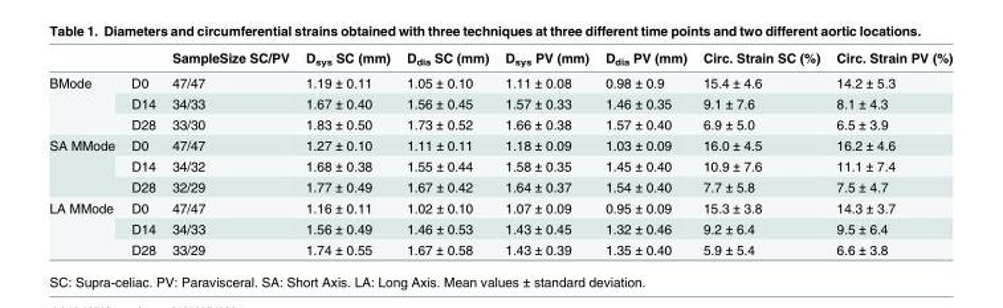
<table><thead><tr><td></td><td></td><td>SampleSize SC/PV</td><td>D<sub>sys</sub> SC (mm)</td><td>D<sub>dia</sub> SC (mm)</td><td>D<sub>sys</sub> PV (mm)</td><td>D<sub>dia</sub> PV (mm)</td><td>Circ. Strain SC (%)</td><td>Circ. Strain PV (%)</td></tr></thead><tbody><tr><td rowspan="3">BMode</td><td>D0</td><td>47/47</td><td>1.19 ± 0.11</td><td>1.05 ± 0.10</td><td>1.11 ± 0.08</td><td>0.98 ± 0.9</td><td>15.4 ± 4.6</td><td>14.2 ± 5.3</td></tr><tr><td>D14</td><td>34/33</td><td>1.67 ± 0.40</td><td>1.56 ± 0.45</td><td>1.57 ± 0.33</td><td>1.46 ± 0.35</td><td>9.1 ± 7.6</td><td>8.1 ± 4.3</td></tr><tr><td>D28</td><td>33/30</td><td>1.83 ± 0.50</td><td>1.73 ± 0.52</td><td>1.66 ± 0.38</td><td>1.57 ± 0.40</td><td>6.9 ± 5.0</td><td>6.5 ± 3.9</td></tr><tr><td rowspan="3">SA MMode</td><td>D0</td><td>47/47</td><td>1.27 ± 0.10</td><td>1.11 ± 0.11</td><td>1.18 ± 0.09</td><td>1.03 ± 0.09</td><td>16.0 ± 4.5</td><td>16.2 ± 4.6</td></tr><tr><td>D14</td><td>34/32</td><td>1.68 ± 0.38</td><td>1.55 ± 0.44</td><td>1.58 ± 0.35</td><td>1.45 ± 0.40</td><td>10.9 ± 7.6</td><td>11.1 ± 7.4</td></tr><tr><td>D28</td><td>32/29</td><td>1.77 ± 0.49</td><td>1.67 ± 0.42</td><td>1.64 ± 0.37</td><td>1.54 ± 0.40</td><td>7.7 ± 5.8</td><td>7.5 ± 4.7</td></tr><tr><td rowspan="3">LA MMode</td><td>D0</td><td>47/47</td><td>1.16 ± 0.11</td><td>1.02 ± 0.10</td><td>1.07 ± 0.09</td><td>0.95 ± 0.09</td><td>15.3 ± 3.8</td><td>14.3 ± 3.7</td></tr><tr><td>D14</td><td>34/33</td><td>1.56 ± 0.49</td><td>1.46 ± 0.53</td><td>1.43 ± 0.45</td><td>1.32 ± 0.46</td><td>9.2 ± 6.4</td><td>9.5 ± 6.4</td></tr><tr><td>D28</td><td>33/29</td><td>1.74 ± 0.55</td><td>1.67 ± 0.58</td><td>1.43 ± 0.39</td><td>1.35 ± 0.40</td><td>5.9 ± 5.4</td><td>6.6 ± 3.8</td></tr></tbody></table>